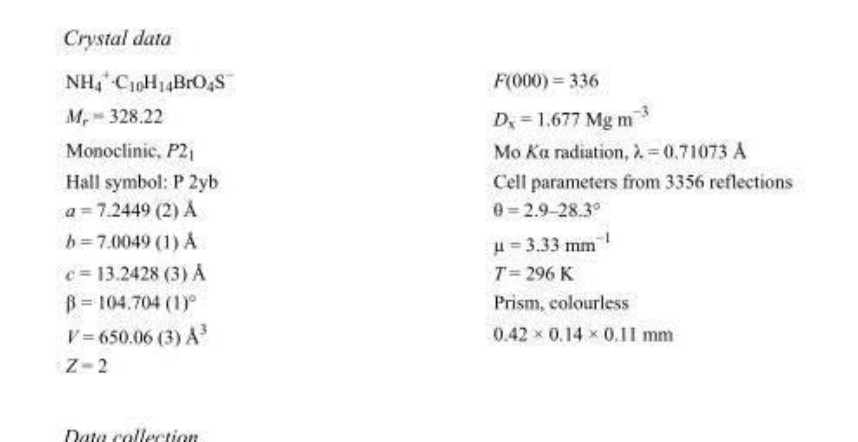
<table><tbody><tr><td>NH<sub>4</sub> <sup>+</sup>·C<sub>10</sub>H<sub>14</sub>BrO<sub>4</sub>S<sup>−</sup></td><td>F(000) = 336</td></tr><tr><td>M<sub>r</sub> = 328.22</td><td>D<sub>x</sub> = 1.677 Mg m<sup>−3</sup></td></tr><tr><td>Monoclinic, P2<sub>1</sub></td><td>Mo Kα radiation, λ = 0.71073 Å</td></tr><tr><td>Hall symbol: P 2yb</td><td>Cell parameters from 3356 reflections</td></tr><tr><td>a = 7.2449 (2) Å</td><td>θ = 2.9–28.3°</td></tr><tr><td>b = 7.0049 (1) Å</td><td>µ = 3.33 mm<sup>−1</sup></td></tr><tr><td>c = 13.2428 (3) Å</td><td>T = 296 K</td></tr><tr><td>β = 104.704 (1)°</td><td>Prism, colourless</td></tr><tr><td>V = 650.06 (3) Å<sup>3</sup></td><td>0.42 × 0.14 × 0.11 mm</td></tr><tr><td>Z = 2</td><td></td></tr></tbody></table>